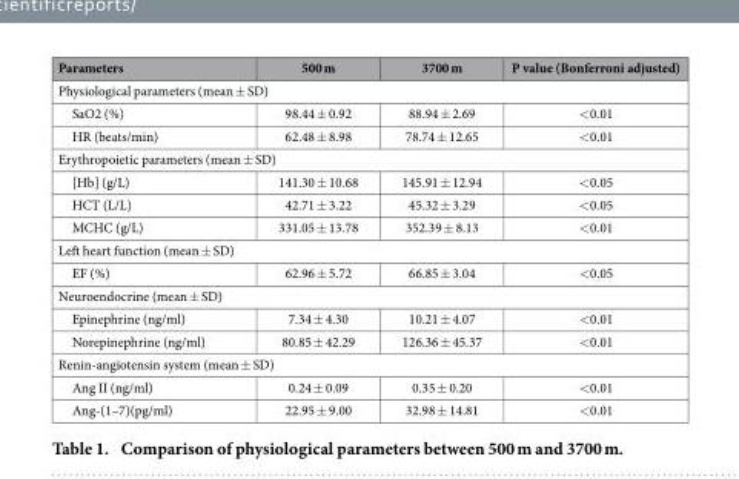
<table><thead><tr><td>Parameters</td><td>500 m</td><td>3700 m</td><td>P value (Bonferroni adjusted)</td></tr></thead><tbody><tr><td colspan="4">Physiological parameters (mean ± SD)</td></tr><tr><td>SaO2 (%)</td><td>98.44 ± 0.92</td><td>88.94 ± 2.69</td><td>&lt; 0.01</td></tr><tr><td>HR (beats/min)</td><td>62.48 ± 8.98</td><td>78.74 ± 12.65</td><td>&lt; 0.01</td></tr><tr><td colspan="4">Erythropoietic parameters (mean ± SD)</td></tr><tr><td>[Hb] (g/L)</td><td>141.30 ± 10.68</td><td>145.91 ± 12.94</td><td>&lt; 0.05</td></tr><tr><td>HCT (L/L)</td><td>42.71 ± 3.22</td><td>45.32 ± 3.29</td><td>&lt; 0.05</td></tr><tr><td>MCHC (g/L)</td><td>331.05 ± 13.78</td><td>352.39 ± 8.13</td><td>&lt; 0.01</td></tr><tr><td colspan="4">Left heart function (mean ± SD)</td></tr><tr><td>EF (%)</td><td>62.96 ± 5.72</td><td>66.85 ± 3.04</td><td>&lt; 0.05</td></tr><tr><td colspan="4">Neuroendocrine (mean ± SD)</td></tr><tr><td>Epinephrine (ng/ml)</td><td>7.34 ± 4.30</td><td>10.21 ± 4.07</td><td>&lt; 0.01</td></tr><tr><td>Norepinephrine (ng/ml)</td><td>80.85 ± 42.29</td><td>126.36 ± 45.37</td><td>&lt; 0.01</td></tr><tr><td colspan="4">Renin-angiotensin system (mean ± SD)</td></tr><tr><td>Ang II (ng/ml)</td><td>0.24 ± 0.09</td><td>0.35 ± 0.20</td><td>&lt; 0.01</td></tr><tr><td>Ang-(1–7)(pg/ml)</td><td>22.95 ± 9.00</td><td>32.98 ± 14.81</td><td>&lt; 0.01</td></tr></tbody></table>